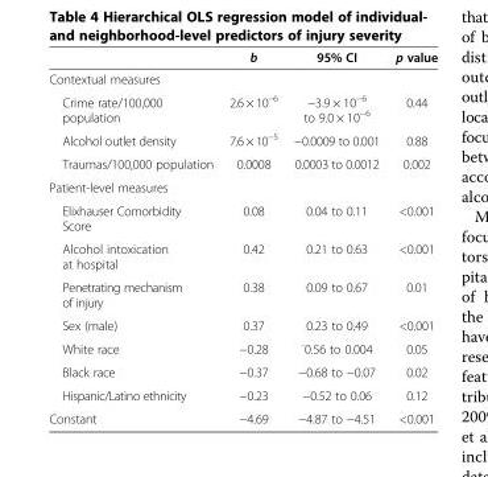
<table><thead><tr><td></td><td>b</td><td>95% CI</td><td>p value</td></tr></thead><tbody><tr><td colspan="4">Contextual measures</td></tr><tr><td>Crime rate/100,000 population</td><td>2.6 × 10<sup>−6</sup></td><td>−3.9 × 10<sup>−6</sup> to 9.0 × 10<sup>−6</sup></td><td>0.44</td></tr><tr><td>Alcohol outlet density</td><td>7.6 × 10<sup>−5</sup></td><td>−0.0009 to 0.001</td><td>0.88</td></tr><tr><td>Traumas/100,000 population</td><td>0.0008</td><td>0.0003 to 0.0012</td><td>0.002</td></tr><tr><td colspan="4">Patient-level measures</td></tr><tr><td>Elixhauser Comorbidity Score</td><td>0.08</td><td>0.04 to 0.11</td><td>&lt;0.001</td></tr><tr><td>Alcohol intoxication at hospital</td><td>0.42</td><td>0.21 to 0.63</td><td>&lt;0.001</td></tr><tr><td>Penetrating mechanism of injury</td><td>0.38</td><td>0.09 to 0.67</td><td>0.01</td></tr><tr><td>Sex (male)</td><td>0.37</td><td>0.23 to 0.49</td><td>&lt;0.001</td></tr><tr><td>White race</td><td>−0.28</td><td><sup>-</sup>0.56 to 0.004</td><td>0.05</td></tr><tr><td>Black race</td><td>−0.37</td><td>−0.68 to −0.07</td><td>0.02</td></tr><tr><td>Hispanic/Latino ethnicity</td><td>−0.23</td><td>−0.52 to 0.06</td><td>0.12</td></tr><tr><td>Constant</td><td>−4.69</td><td>−4.87 to −4.51</td><td>&lt;0.001</td></tr></tbody></table>